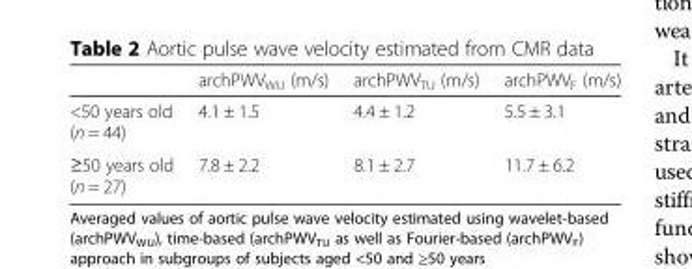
<table><thead><tr><td></td><td>archPWV<sub>WU</sub> (m/s)</td><td>archPWV<sub>TU</sub> (m/s)</td><td>archPWV<sub>F</sub> (m/s)</td></tr></thead><tbody><tr><td>&lt;50 years old (n = 44)</td><td>4.1 ± 1.5</td><td>4.4 ± 1.2</td><td>5.5 ± 3.1</td></tr><tr><td>≥50 years old (n = 27)</td><td>7.8 ± 2.2</td><td>8.1 ± 2.7</td><td>11.7 ± 6.2</td></tr></tbody></table>